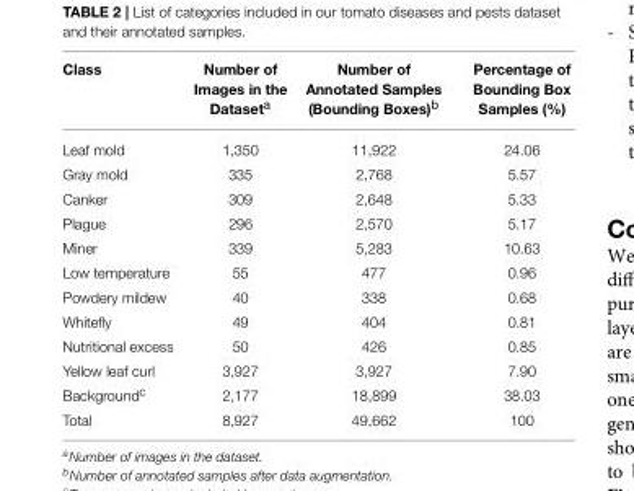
<table><thead><tr><td>Class</td><td>Number of Images in the Dataset<sup>a</sup></td><td>Number of Annotated Samples (Bounding Boxes)<sup>b</sup></td><td>Percentage of Bounding Box Samples (%)</td></tr></thead><tbody><tr><td>Leaf mold</td><td>1,350</td><td>11,922</td><td>24.06</td></tr><tr><td>Gray mold</td><td>335</td><td>2,768</td><td>5.57</td></tr><tr><td>Canker</td><td>309</td><td>2,648</td><td>5.33</td></tr><tr><td>Plague</td><td>296</td><td>2,570</td><td>5.17</td></tr><tr><td>Miner</td><td>339</td><td>5,283</td><td>10.63</td></tr><tr><td>Low temperature</td><td>55</td><td>477</td><td>0.96</td></tr><tr><td>Powdery mildew</td><td>40</td><td>338</td><td>0.68</td></tr><tr><td>Whitefly</td><td>49</td><td>404</td><td>0.81</td></tr><tr><td>Nutritional excess</td><td>50</td><td>426</td><td>0.85</td></tr><tr><td>Yellow leaf curl</td><td>3,927</td><td>3,927</td><td>7.90</td></tr><tr><td>Background<sup>c</sup></td><td>2,177</td><td>18,899</td><td>38.03</td></tr><tr><td>Total</td><td>8,927</td><td>49,662</td><td>100</td></tr></tbody></table>